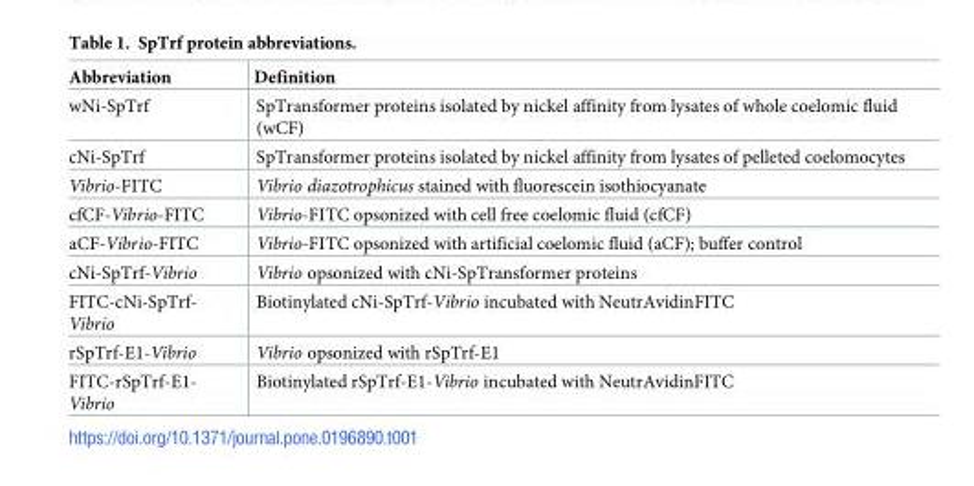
<table><thead><tr><td>Abbreviation</td><td>Definition</td></tr></thead><tbody><tr><td>wNi-SpTrf</td><td>SpTransformer proteins isolated by nickel affinity from lysates of whole coelomic fluid (wCF)</td></tr><tr><td>cNi-SpTrf</td><td>SpTransformer proteins isolated by nickel affinity from lysates of pelleted coelomocytes</td></tr><tr><td>Vibrio-FITC</td><td>Vibrio diazotrophicus stained with fluorescein isothiocyanate</td></tr><tr><td>cfCF-Vibrio-FITC</td><td>Vibrio-FITC opsonized with cell free coelomic fluid (cfCF)</td></tr><tr><td>aCF-Vibrio-FITC</td><td>Vibrio-FITC opsonized with artificial coelomic fluid (aCF); buffer control</td></tr><tr><td>cNi-SpTrf-Vibrio</td><td>Vibrio opsonized with cNi-SpTransformer proteins</td></tr><tr><td>FITC-cNi-SpTrf- Vibrio</td><td>Biotinylated cNi-SpTrf-Vibrio incubated with NeutrAvidinFITC</td></tr><tr><td>rSpTrf-E1-Vibrio</td><td>Vibrio opsonized with rSpTrf-E1</td></tr><tr><td>FITC-rSpTrf-E1- Vibrio</td><td>Biotinylated rSpTrf-E1-Vibrio incubated with NeutrAvidinFITC</td></tr></tbody></table>